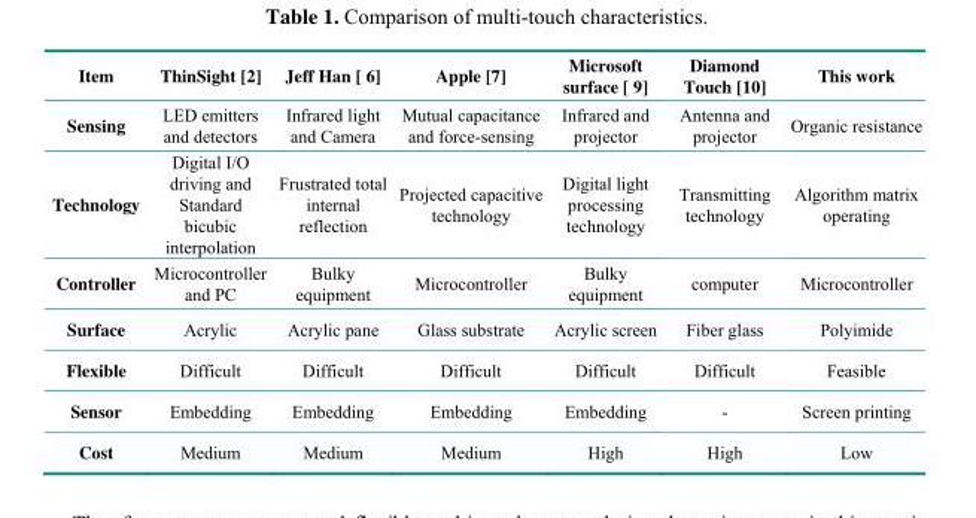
<table><thead><tr><td>Item</td><td>ThinSight [2]</td><td>Jeff Han [ 6]</td><td>Apple [7]</td><td>Microsoft surface [ 9]</td><td>Diamond Touch [10]</td><td>This work</td></tr></thead><tbody><tr><td>Sensing</td><td>LED emitters and detectors</td><td>Infrared light and Camera</td><td>Mutual capacitance and force-sensing</td><td>Infrared and projector</td><td>Antenna and projector</td><td>Organic resistance</td></tr><tr><td>Technology</td><td>Digital I/O driving and Standard bicubic interpolation</td><td>Frustrated total internal reflection</td><td>Projected capacitive technology</td><td>Digital light processing technology</td><td>Transmitting technology</td><td>Algorithm matrix operating</td></tr><tr><td>Controller</td><td>Microcontroller and PC</td><td>Bulky equipment</td><td>Microcontroller</td><td>Bulky equipment</td><td>computer</td><td>Microcontroller</td></tr><tr><td>Surface</td><td>Acrylic</td><td>Acrylic pane</td><td>Glass substrate</td><td>Acrylic screen</td><td>Fiber glass</td><td>Polyimide</td></tr><tr><td>Flexible</td><td>Difficult</td><td>Difficult</td><td>Difficult</td><td>Difficult</td><td>Difficult</td><td>Feasible</td></tr><tr><td>Sensor</td><td>Embedding</td><td>Embedding</td><td>Embedding</td><td>Embedding</td><td>-</td><td>Screen printing</td></tr><tr><td>Cost</td><td>Medium</td><td>Medium</td><td>Medium</td><td>High</td><td>High</td><td>Low</td></tr></tbody></table>